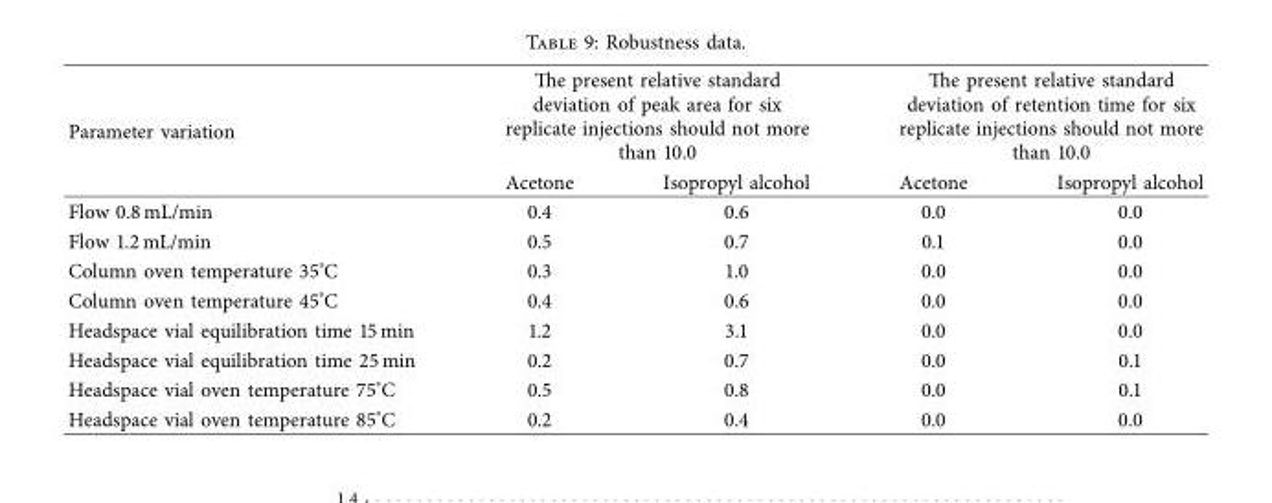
<table><thead><tr><td rowspan="2">Parameter variation</td><td colspan="2">Te present relative standard deviation of peak area for six replicate injections should not more than 10.0</td><td colspan="2">Te present relative standard deviation of retention time for six replicate injections should not more than 10.0</td></tr><tr><td>Acetone</td><td>Isopropyl alcohol</td><td>Acetone</td><td>Isopropyl alcohol</td></tr></thead><tbody><tr><td>Flow 0.8 mL/min</td><td>0.4</td><td>0.6</td><td>0.0</td><td>0.0</td></tr><tr><td>Flow 1.2 mL/min</td><td>0.5</td><td>0.7</td><td>0.1</td><td>0.0</td></tr><tr><td>Column oven temperature 35°C</td><td>0.3</td><td>1.0</td><td>0.0</td><td>0.0</td></tr><tr><td>Column oven temperature 45°C</td><td>0.4</td><td>0.6</td><td>0.0</td><td>0.0</td></tr><tr><td>Headspace vial equilibration time 15 min</td><td>1.2</td><td>3.1</td><td>0.0</td><td>0.0</td></tr><tr><td>Headspace vial equilibration time 25 min</td><td>0.2</td><td>0.7</td><td>0.0</td><td>0.1</td></tr><tr><td>Headspace vial oven temperature 75°C</td><td>0.5</td><td>0.8</td><td>0.0</td><td>0.1</td></tr><tr><td>Headspace vial oven temperature 85°C</td><td>0.2</td><td>0.4</td><td>0.0</td><td>0.0</td></tr></tbody></table>